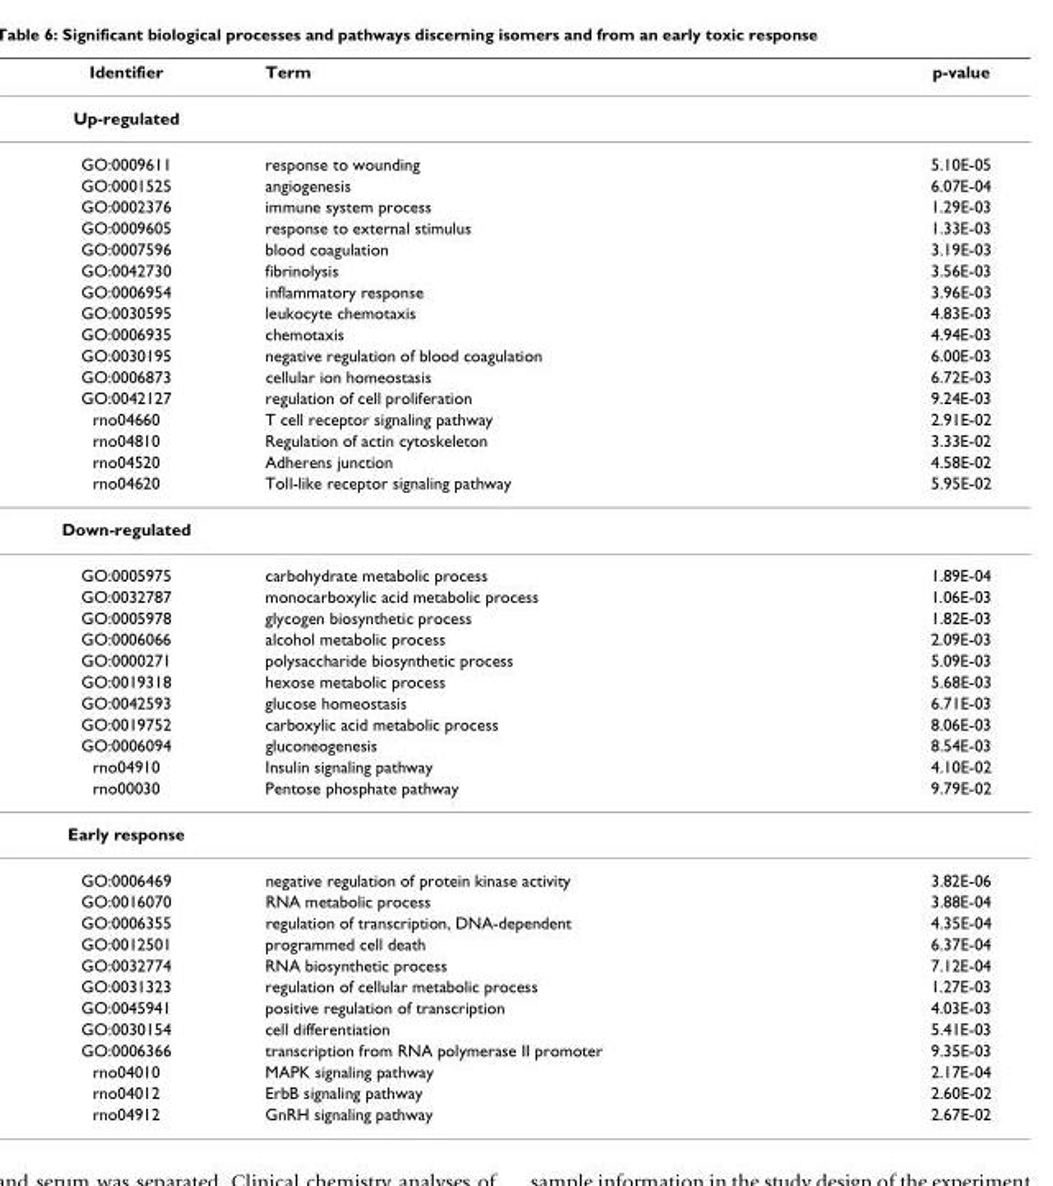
<table><thead><tr><td>Identifier</td><td>Term</td><td>p-value</td></tr></thead><tbody><tr><td colspan="3">Up-regulated</td></tr><tr><td>GO:0009611</td><td>response to wounding</td><td>5.10E-05</td></tr><tr><td>GO:0001525</td><td>angiogenesis</td><td>6.07E-04</td></tr><tr><td>GO:0002376</td><td>immune system process</td><td>1.29E-03</td></tr><tr><td>GO:0009605</td><td>response to external stimulus</td><td>1.33E-03</td></tr><tr><td>GO:0007596</td><td>blood coagulation</td><td>3.19E-03</td></tr><tr><td>GO:0042730</td><td>fibrinolysis</td><td>3.56E-03</td></tr><tr><td>GO:0006954</td><td>inflammatory response</td><td>3.96E-03</td></tr><tr><td>GO:0030595</td><td>leukocyte chemotaxis</td><td>4.83E-03</td></tr><tr><td>GO:0006935</td><td>chemotaxis</td><td>4.94E-03</td></tr><tr><td>GO:0030195</td><td>negative regulation of blood coagulation</td><td>6.00E-03</td></tr><tr><td>GO:0006873</td><td>cellular ion homeostasis</td><td>6.72E-03</td></tr><tr><td>GO:0042127</td><td>regulation of cell proliferation</td><td>9.24E-03</td></tr><tr><td>rno04660</td><td>T cell receptor signaling pathway</td><td>2.91E-02</td></tr><tr><td>rno04810</td><td>Regulation of actin cytoskeleton</td><td>3.33E-02</td></tr><tr><td>rno04520</td><td>Adherens junction</td><td>4.58E-02</td></tr><tr><td>rno04620</td><td>Toll-like receptor signaling pathway</td><td>5.95E-02</td></tr><tr><td colspan="3">Down-regulated</td></tr><tr><td>GO:0005975</td><td>carbohydrate metabolic process</td><td>1.89E-04</td></tr><tr><td>GO:0032787</td><td>monocarboxylic acid metabolic process</td><td>1.06E-03</td></tr><tr><td>GO:0005978</td><td>glycogen biosynthetic process</td><td>1.82E-03</td></tr><tr><td>GO:0006066</td><td>alcohol metabolic process</td><td>2.09E-03</td></tr><tr><td>GO:0000271</td><td>polysaccharide biosynthetic process</td><td>5.09E-03</td></tr><tr><td>GO:0019318</td><td>hexose metabolic process</td><td>5.68E-03</td></tr><tr><td>GO:0042593</td><td>glucose homeostasis</td><td>6.71E-03</td></tr><tr><td>GO:0019752</td><td>carboxylic acid metabolic process</td><td>8.06E-03</td></tr><tr><td>GO:0006094</td><td>gluconeogenesis</td><td>8.54E-03</td></tr><tr><td>rno04910</td><td>Insulin signaling pathway</td><td>4.10E-02</td></tr><tr><td>rno00030</td><td>Pentose phosphate pathway</td><td>9.79E-02</td></tr><tr><td colspan="3">Early response</td></tr><tr><td>GO:0006469</td><td>negative regulation of protein kinase activity</td><td>3.82E-06</td></tr><tr><td>GO:0016070</td><td>RNA metabolic process</td><td>3.88E-04</td></tr><tr><td>GO:0006355</td><td>regulation of transcription, DNA-dependent</td><td>4.35E-04</td></tr><tr><td>GO:0012501</td><td>programmed cell death</td><td>6.37E-04</td></tr><tr><td>GO:0032774</td><td>RNA biosynthetic process</td><td>7.12E-04</td></tr><tr><td>GO:0031323</td><td>regulation of cellular metabolic process</td><td>1.27E-03</td></tr><tr><td>GO:0045941</td><td>positive regulation of transcription</td><td>4.03E-03</td></tr><tr><td>GO:0030154</td><td>cell differentiation</td><td>5.41E-03</td></tr><tr><td>GO:0006366</td><td>transcription from RNA polymerase II promoter</td><td>9.35E-03</td></tr><tr><td>rno04010</td><td>MAPK signaling pathway</td><td>2.17E-04</td></tr><tr><td>rno04012</td><td>ErbB signaling pathway</td><td>2.60E-02</td></tr><tr><td>rno04912</td><td>GnRH signaling pathway</td><td>2.67E-02</td></tr></tbody></table>